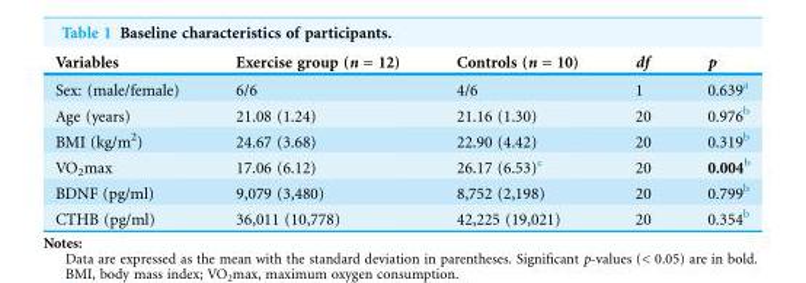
<table><thead><tr><td>Variables</td><td>Exercise group (n = 12)</td><td>Controls (n = 10)</td><td>df</td><td>p</td></tr></thead><tbody><tr><td>Sex: (male/female)</td><td>6/6</td><td>4/6</td><td>1</td><td>0.639<sup>a</sup></td></tr><tr><td>Age (years)</td><td>21.08 (1.24)</td><td>21.16 (1.30)</td><td>20</td><td>0.976<sup>b</sup></td></tr><tr><td>BMI (kg/m<sup>2</sup>)</td><td>24.67 (3.68)</td><td>22.90 (4.42)</td><td>20</td><td>0.319<sup>b</sup></td></tr><tr><td>VO<sub>2</sub>max</td><td>17.06 (6.12)</td><td>26.17 (6.53)<sup>c</sup></td><td>20</td><td>0.004<sup>b</sup></td></tr><tr><td>BDNF (pg/ml)</td><td>9,079 (3,480)</td><td>8,752 (2,198)</td><td>20</td><td>0.799<sup>b</sup></td></tr><tr><td>CTHB (pg/ml)</td><td>36,011 (10,778)</td><td>42,225 (19,021)</td><td>20</td><td>0.354<sup>b</sup></td></tr></tbody></table>